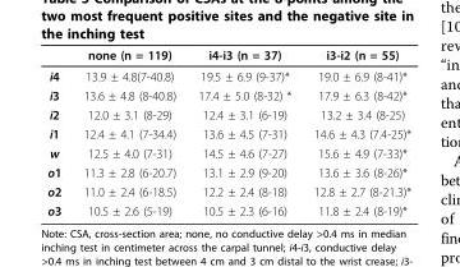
<table><thead><tr><td></td><td>none (n = 119)</td><td>i4-i3 (n = 37)</td><td>i3-i2 (n = 55)</td></tr></thead><tbody><tr><td>i4</td><td>13.9 ± 4.8(7-40.8)</td><td>19.5 ± 6.9 (9-37)*</td><td>19.0 ± 6.9 (8-41)*</td></tr><tr><td>i3</td><td>13.6 ± 4.8 (8-40.8)</td><td>17.4 ± 5.0 (8-32) *</td><td>17.9 ± 6.3 (8-42)*</td></tr><tr><td>i2</td><td>12.0 ± 3.1 (8-29)</td><td>12.4 ± 3.1 (6-19)</td><td>13.2 ± 3.4 (8-25)</td></tr><tr><td>i1</td><td>12.4 ± 4.1 (7-34.4)</td><td>13.6 ± 4.5 (7-31)</td><td>14.6 ± 4.3 (7.4-25)*</td></tr><tr><td>w</td><td>12.5 ± 4.0 (7-31)</td><td>14.5 ± 4.6 (7-27)</td><td>15.6 ± 4.9 (7-33)*</td></tr><tr><td>o1</td><td>11.3 ± 2.8 (6-20.7)</td><td>13.1 ± 2.9 (9-20)</td><td>13.6 ± 3.6 (8-26)*</td></tr><tr><td>o2</td><td>11.0 ± 2.4 (6-18.5)</td><td>12.2 ± 2.4 (8-18)</td><td>12.8 ± 2.7 (8-21.3)*</td></tr><tr><td>o3</td><td>10.5 ± 2.6 (5-19)</td><td>10.5 ± 2.3 (6-16)</td><td>11.8 ± 2.4 (8-19)*</td></tr></tbody></table>